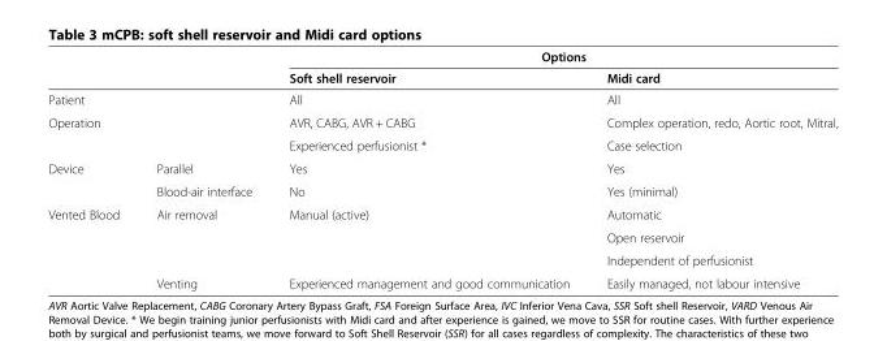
<table><thead><tr><td rowspan="2"></td><td rowspan="2"></td><td colspan="2">Options</td></tr><tr><td>Soft shell reservoir</td><td>Midi card</td></tr></thead><tbody><tr><td>Patient</td><td></td><td>All</td><td>All</td></tr><tr><td rowspan="2">Operation</td><td></td><td>AVR, CABG, AVR + CABG</td><td>Complex operation, redo, Aortic root, Mitral,</td></tr><tr><td></td><td>Experienced perfusionist *</td><td>Case selection</td></tr><tr><td rowspan="2">Device</td><td>Parallel</td><td>Yes</td><td>Yes</td></tr><tr><td>Blood-air interface</td><td>No</td><td>Yes (minimal)</td></tr><tr><td rowspan="4">Vented Blood</td><td rowspan="3">Air removal</td><td rowspan="3">Manual (active)</td><td>Automatic</td></tr><tr><td>Open reservoir</td></tr><tr><td>Independent of perfusionist</td></tr><tr><td>Venting</td><td>Experienced management and good communication</td><td>Easily managed, not labour intensive</td></tr></tbody></table>